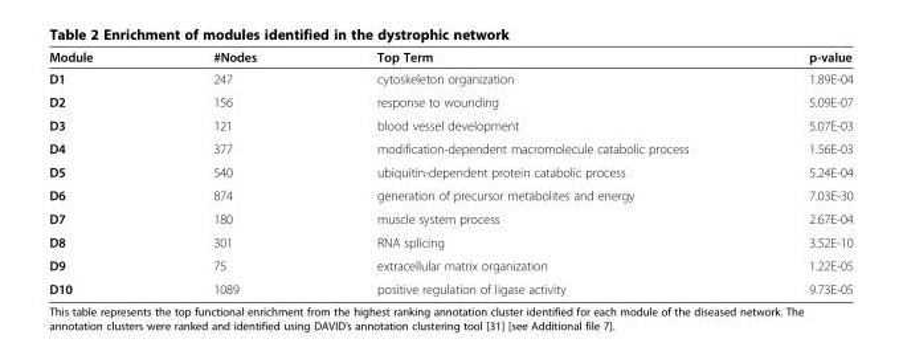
<table><thead><tr><td>Module</td><td>#Nodes</td><td>Top Term</td><td>p-value</td></tr></thead><tbody><tr><td>D1</td><td>247</td><td>cytoskeleton organization</td><td>1.89E-04</td></tr><tr><td>D2</td><td>156</td><td>response to wounding</td><td>5.09E-07</td></tr><tr><td>D3</td><td>121</td><td>blood vessel development</td><td>5.07E-03</td></tr><tr><td>D4</td><td>377</td><td>modification-dependent macromolecule catabolic process</td><td>1.56E-03</td></tr><tr><td>D5</td><td>540</td><td>ubiquitin-dependent protein catabolic process</td><td>5.24E-04</td></tr><tr><td>D6</td><td>874</td><td>generation of precursor metabolites and energy</td><td>7.03E-30</td></tr><tr><td>D7</td><td>180</td><td>muscle system process</td><td>2.67E-04</td></tr><tr><td>D8</td><td>301</td><td>RNA splicing</td><td>3.52E-10</td></tr><tr><td>D9</td><td>75</td><td>extracellular matrix organization</td><td>1.22E-05</td></tr><tr><td>D10</td><td>1089</td><td>positive regulation of ligase activity</td><td>9.73E-05</td></tr></tbody></table>